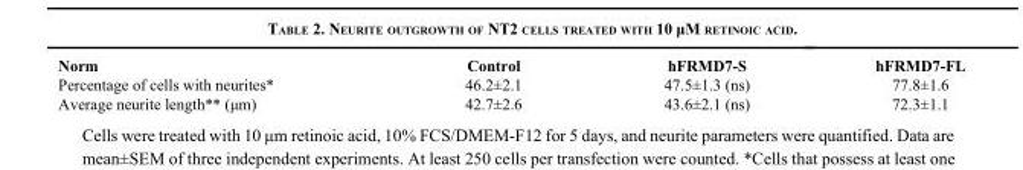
<table><thead><tr><td>Norm</td><td>Control</td><td>hFRMD7-S</td><td>hFRMD7-FL</td></tr></thead><tbody><tr><td>Percentage of cells with neurites*</td><td>46.2±2.1</td><td>47.5±1.3 (ns)</td><td>77.8±1.6</td></tr><tr><td>Average neurite length** (μm)</td><td>42.7±2.6</td><td>43.6±2.1 (ns)</td><td>72.3±1.1</td></tr></tbody></table>